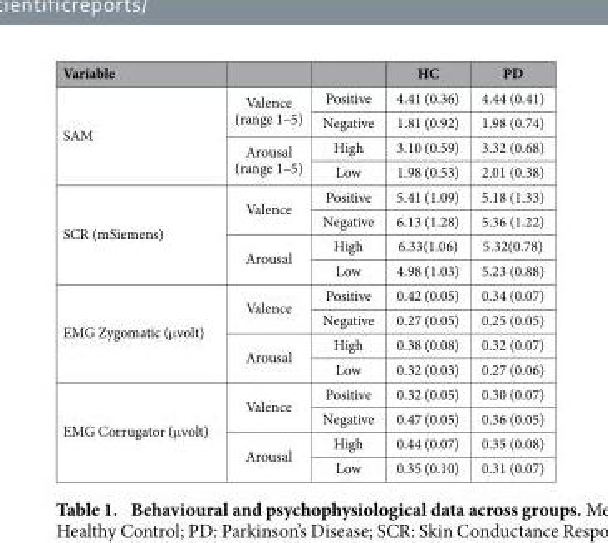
<table><thead><tr><td>Variable</td><td></td><td></td><td>HC</td><td>PD</td></tr></thead><tbody><tr><td rowspan="4">SAM</td><td rowspan="2">Valence (range 1–5)</td><td>Positive</td><td>4.41 (0.36)</td><td>4.44 (0.41)</td></tr><tr><td>Negative</td><td>1.81 (0.92)</td><td>1.98 (0.74)</td></tr><tr><td rowspan="2">Arousal (range 1–5)</td><td>High</td><td>3.10 (0.59)</td><td>3.32 (0.68)</td></tr><tr><td>Low</td><td>1.98 (0.53)</td><td>2.01 (0.38)</td></tr><tr><td rowspan="4">SCR (mSiemens)</td><td rowspan="2">Valence</td><td>Positive</td><td>5.41 (1.09)</td><td>5.18 (1.33)</td></tr><tr><td>Negative</td><td>6.13 (1.28)</td><td>5.36 (1.22)</td></tr><tr><td rowspan="2">Arousal</td><td>High</td><td>6.33(1.06)</td><td>5.32(0.78)</td></tr><tr><td>Low</td><td>4.98 (1.03)</td><td>5.23 (0.88)</td></tr><tr><td rowspan="4">EMG Zygomatic (μ volt)</td><td rowspan="2">Valence</td><td>Positive</td><td>0.42 (0.05)</td><td>0.34 (0.07)</td></tr><tr><td>Negative</td><td>0.27 (0.05)</td><td>0.25 (0.05)</td></tr><tr><td rowspan="2">Arousal</td><td>High</td><td>0.38 (0.08)</td><td>0.32 (0.07)</td></tr><tr><td>Low</td><td>0.32 (0.03)</td><td>0.27 (0.06)</td></tr><tr><td rowspan="4">EMG Corrugator (μ volt)</td><td rowspan="2">Valence</td><td>Positive</td><td>0.32 (0.05)</td><td>0.30 (0.07)</td></tr><tr><td>Negative</td><td>0.47 (0.05)</td><td>0.36 (0.05)</td></tr><tr><td rowspan="2">Arousal</td><td>High</td><td>0.44 (0.07)</td><td>0.35 (0.08)</td></tr><tr><td>Low</td><td>0.35 (0.10)</td><td>0.31 (0.07)</td></tr></tbody></table>